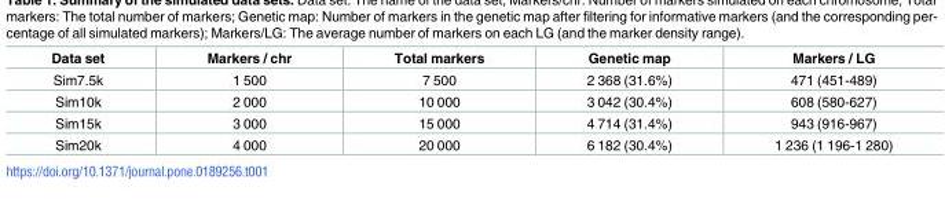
<table><thead><tr><td>Data set</td><td>Markers / chr</td><td>Total markers</td><td>Genetic map</td><td>Markers / LG</td></tr></thead><tbody><tr><td>Sim7.5k</td><td>1 500</td><td>7 500</td><td>2 368 (31.6%)</td><td>471 (451-489)</td></tr><tr><td>Sim10k</td><td>2 000</td><td>10 000</td><td>3 042 (30.4%)</td><td>608 (580-627)</td></tr><tr><td>Sim15k</td><td>3 000</td><td>15 000</td><td>4 714 (31.4%)</td><td>943 (916-967)</td></tr><tr><td>Sim20k</td><td>4 000</td><td>20 000</td><td>6 182 (30.4%)</td><td>1 236 (1 196-1 280)</td></tr></tbody></table>